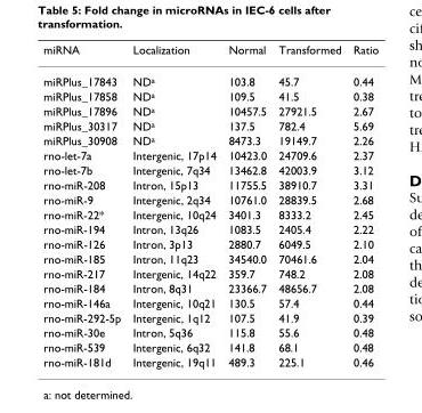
<table><thead><tr><td>miRNA</td><td>Localization</td><td>Normal</td><td>Transformed</td><td>Ratio</td></tr></thead><tbody><tr><td>miRPlus_17843</td><td>ND<sup>a</sup></td><td>103.8</td><td>45.7</td><td>0.44</td></tr><tr><td>miRPlus_17858</td><td>ND<sup>a</sup></td><td>109.5</td><td>41.5</td><td>0.38</td></tr><tr><td>miRPlus_17896</td><td>ND<sup>a</sup></td><td>10457.5</td><td>27921.5</td><td>2.67</td></tr><tr><td>miRPlus_30317</td><td>ND<sup>a</sup></td><td>137.5</td><td>782.4</td><td>5.69</td></tr><tr><td>miRPlus_30908</td><td>ND<sup>a</sup></td><td>8473.3</td><td>19149.7</td><td>2.26</td></tr><tr><td>rno-let-7a</td><td>Intergenic, 17p14</td><td>10423.0</td><td>24709.6</td><td>2.37</td></tr><tr><td>rno-let-7b</td><td>Intergenic, 7q34</td><td>13462.8</td><td>42003.9</td><td>3.12</td></tr><tr><td>rno-miR-208</td><td>Intron, 15p13</td><td>11755.5</td><td>38910.7</td><td>3.31</td></tr><tr><td>rno-miR-9</td><td>Intergenic, 2q34</td><td>10761.0</td><td>28839.5</td><td>2.68</td></tr><tr><td>rno-miR-22*</td><td>Intergenic, 10q24</td><td>3401.3</td><td>8333.2</td><td>2.45</td></tr><tr><td>rno-miR-194</td><td>Intron, 13q26</td><td>1083.5</td><td>2405.4</td><td>2.22</td></tr><tr><td>rno-miR-126</td><td>Intron, 3p13</td><td>2880.7</td><td>6049.5</td><td>2.10</td></tr><tr><td>rno-miR-185</td><td>Intron, 11q23</td><td>34540.0</td><td>70461.6</td><td>2.04</td></tr><tr><td>rno-miR-217</td><td>Intergenic, 14q22</td><td>359.7</td><td>748.2</td><td>2.08</td></tr><tr><td>rno-miR-184</td><td>Intron, 8q31</td><td>23366.7</td><td>48656.7</td><td>2.08</td></tr><tr><td>rno-miR-146a</td><td>Intergenic, 10q21</td><td>130.5</td><td>57.4</td><td>0.44</td></tr><tr><td>rno-miR-292-5p</td><td>Intergenic, 1q12</td><td>107.5</td><td>41.9</td><td>0.39</td></tr><tr><td>rno-miR-30e</td><td>Intron, 5q36</td><td>115.8</td><td>55.6</td><td>0.48</td></tr><tr><td>rno-miR-539</td><td>Intergenic, 6q32</td><td>141.8</td><td>68.1</td><td>0.48</td></tr><tr><td>rno-miR-181d</td><td>Intergenic, 19q11</td><td>489.3</td><td>225.1</td><td>0.46</td></tr></tbody></table>